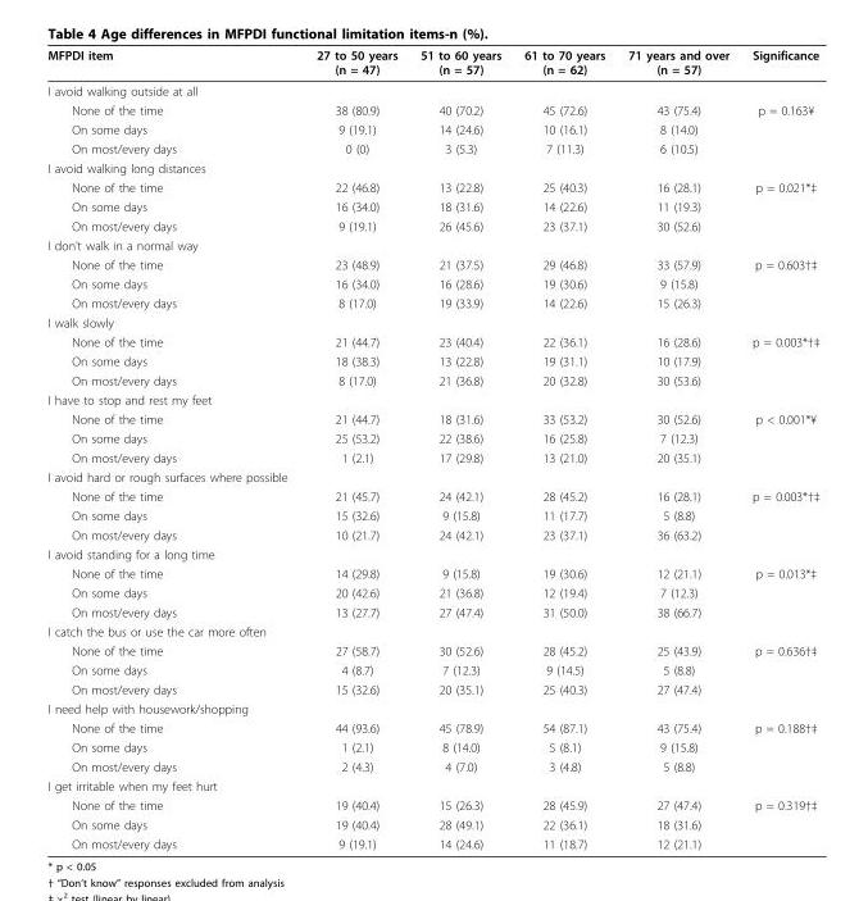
<table><thead><tr><td>MFPDI item</td><td>27 to 50 years (n = 47)</td><td>51 to 60 years (n = 57)</td><td>61 to 70 years (n = 62)</td><td>71 years and over (n = 57)</td><td>Significance</td></tr></thead><tbody><tr><td colspan="6">I avoid walking outside at all</td></tr><tr><td>None of the time</td><td>38 (80.9)</td><td>40 (70.2)</td><td>45 (72.6)</td><td>43 (75.4)</td><td>p = 0.163¥</td></tr><tr><td>On some days</td><td>9 (19.1)</td><td>14 (24.6)</td><td>10 (16.1)</td><td>8 (14.0)</td><td></td></tr><tr><td>On most/every days</td><td>0 (0)</td><td>3 (5.3)</td><td>7 (11.3)</td><td>6 (10.5)</td><td></td></tr><tr><td colspan="6">I avoid walking long distances</td></tr><tr><td>None of the time</td><td>22 (46.8)</td><td>13 (22.8)</td><td>25 (40.3)</td><td>16 (28.1)</td><td>p = 0.021*‡</td></tr><tr><td>On some days</td><td>16 (34.0)</td><td>18 (31.6)</td><td>14 (22.6)</td><td>11 (19.3)</td><td></td></tr><tr><td>On most/every days</td><td>9 (19.1)</td><td>26 (45.6)</td><td>23 (37.1)</td><td>30 (52.6)</td><td></td></tr><tr><td colspan="6">I don’t walk in a normal way</td></tr><tr><td>None of the time</td><td>23 (48.9)</td><td>21 (37.5)</td><td>29 (46.8)</td><td>33 (57.9)</td><td>p = 0.603†‡</td></tr><tr><td>On some days</td><td>16 (34.0)</td><td>16 (28.6)</td><td>19 (30.6)</td><td>9 (15.8)</td><td></td></tr><tr><td>On most/every days</td><td>8 (17.0)</td><td>19 (33.9)</td><td>14 (22.6)</td><td>15 (26.3)</td><td></td></tr><tr><td colspan="6">I walk slowly</td></tr><tr><td>None of the time</td><td>21 (44.7)</td><td>23 (40.4)</td><td>22 (36.1)</td><td>16 (28.6)</td><td>p = 0.003*†‡</td></tr><tr><td>On some days</td><td>18 (38.3)</td><td>13 (22.8)</td><td>19 (31.1)</td><td>10 (17.9)</td><td></td></tr><tr><td>On most/every days</td><td>8 (17.0)</td><td>21 (36.8)</td><td>20 (32.8)</td><td>30 (53.6)</td><td></td></tr><tr><td colspan="6">I have to stop and rest my feet</td></tr><tr><td>None of the time</td><td>21 (44.7)</td><td>18 (31.6)</td><td>33 (53.2)</td><td>30 (52.6)</td><td>p &lt; 0.001*¥</td></tr><tr><td>On some days</td><td>25 (53.2)</td><td>22 (38.6)</td><td>16 (25.8)</td><td>7 (12.3)</td><td></td></tr><tr><td>On most/every days</td><td>1 (2.1)</td><td>17 (29.8)</td><td>13 (21.0)</td><td>20 (35.1)</td><td></td></tr><tr><td colspan="6">I avoid hard or rough surfaces where possible</td></tr><tr><td>None of the time</td><td>21 (45.7)</td><td>24 (42.1)</td><td>28 (45.2)</td><td>16 (28.1)</td><td>p = 0.003*†‡</td></tr><tr><td>On some days</td><td>15 (32.6)</td><td>9 (15.8)</td><td>11 (17.7)</td><td>5 (8.8)</td><td></td></tr><tr><td>On most/every days</td><td>10 (21.7)</td><td>24 (42.1)</td><td>23 (37.1)</td><td>36 (63.2)</td><td></td></tr><tr><td colspan="6">I avoid standing for a long time</td></tr><tr><td>None of the time</td><td>14 (29.8)</td><td>9 (15.8)</td><td>19 (30.6)</td><td>12 (21.1)</td><td>p = 0.013*‡</td></tr><tr><td>On some days</td><td>20 (42.6)</td><td>21 (36.8)</td><td>12 (19.4)</td><td>7 (12.3)</td><td></td></tr><tr><td>On most/every days</td><td>13 (27.7)</td><td>27 (47.4)</td><td>31 (50.0)</td><td>38 (66.7)</td><td></td></tr><tr><td colspan="6">I catch the bus or use the car more often</td></tr><tr><td>None of the time</td><td>27 (58.7)</td><td>30 (52.6)</td><td>28 (45.2)</td><td>25 (43.9)</td><td>p = 0.636†‡</td></tr><tr><td>On some days</td><td>4 (8.7)</td><td>7 (12.3)</td><td>9 (14.5)</td><td>5 (8.8)</td><td></td></tr><tr><td>On most/every days</td><td>15 (32.6)</td><td>20 (35.1)</td><td>25 (40.3)</td><td>27 (47.4)</td><td></td></tr><tr><td colspan="6">I need help with housework/shopping</td></tr><tr><td>None of the time</td><td>44 (93.6)</td><td>45 (78.9)</td><td>54 (87.1)</td><td>43 (75.4)</td><td>p = 0.188†‡</td></tr><tr><td>On some days</td><td>1 (2.1)</td><td>8 (14.0)</td><td>5 (8.1)</td><td>9 (15.8)</td><td></td></tr><tr><td>On most/every days</td><td>2 (4.3)</td><td>4 (7.0)</td><td>3 (4.8)</td><td>5 (8.8)</td><td></td></tr><tr><td colspan="6">I get irritable when my feet hurt</td></tr><tr><td>None of the time</td><td>19 (40.4)</td><td>15 (26.3)</td><td>28 (45.9)</td><td>27 (47.4)</td><td>p = 0.319†‡</td></tr><tr><td>On some days</td><td>19 (40.4)</td><td>28 (49.1)</td><td>22 (36.1)</td><td>18 (31.6)</td><td></td></tr><tr><td>On most/every days</td><td>9 (19.1)</td><td>14 (24.6)</td><td>11 (18.7)</td><td>12 (21.1)</td><td></td></tr></tbody></table>